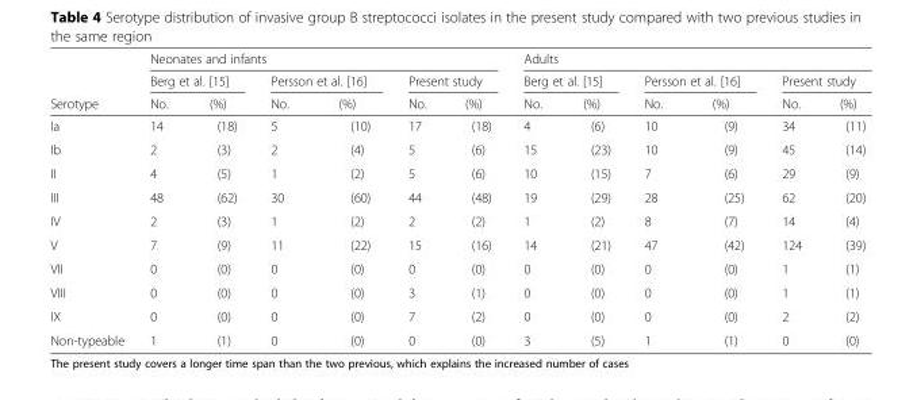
<table><thead><tr><td rowspan="3">Serotype</td><td colspan="6">Neonates and infants</td><td colspan="6">Adults</td></tr><tr><td colspan="2">Berg et al. [15]</td><td colspan="2">Persson et al. [16]</td><td colspan="2">Present study</td><td colspan="2">Berg et al. [15]</td><td colspan="2">Persson et al. [16]</td><td colspan="2">Present study</td></tr><tr><td>No.</td><td>(%)</td><td>No.</td><td>(%)</td><td>No.</td><td>(%)</td><td>No.</td><td>(%)</td><td>No.</td><td>(%)</td><td>No.</td><td>(%)</td></tr></thead><tbody><tr><td>Ia</td><td>14</td><td>(18)</td><td>5</td><td>(10)</td><td>17</td><td>(18)</td><td>4</td><td>(6)</td><td>10</td><td>(9)</td><td>34</td><td>(11)</td></tr><tr><td>Ib</td><td>2</td><td>(3)</td><td>2</td><td>(4)</td><td>5</td><td>(6)</td><td>15</td><td>(23)</td><td>10</td><td>(9)</td><td>45</td><td>(14)</td></tr><tr><td>II</td><td>4</td><td>(5)</td><td>1</td><td>(2)</td><td>5</td><td>(6)</td><td>10</td><td>(15)</td><td>7</td><td>(6)</td><td>29</td><td>(9)</td></tr><tr><td>III</td><td>48</td><td>(62)</td><td>30</td><td>(60)</td><td>44</td><td>(48)</td><td>19</td><td>(29)</td><td>28</td><td>(25)</td><td>62</td><td>(20)</td></tr><tr><td>IV</td><td>2</td><td>(3)</td><td>1</td><td>(2)</td><td>2</td><td>(2)</td><td>1</td><td>(2)</td><td>8</td><td>(7)</td><td>14</td><td>(4)</td></tr><tr><td>V</td><td>7</td><td>(9)</td><td>11</td><td>(22)</td><td>15</td><td>(16)</td><td>14</td><td>(21)</td><td>47</td><td>(42)</td><td>124</td><td>(39)</td></tr><tr><td>VII</td><td>0</td><td>(0)</td><td>0</td><td>(0)</td><td>0</td><td>(0)</td><td>0</td><td>(0)</td><td>0</td><td>(0)</td><td>1</td><td>(1)</td></tr><tr><td>VIII</td><td>0</td><td>(0)</td><td>0</td><td>(0)</td><td>3</td><td>(1)</td><td>0</td><td>(0)</td><td>0</td><td>(0)</td><td>1</td><td>(1)</td></tr><tr><td>IX</td><td>0</td><td>(0)</td><td>0</td><td>(0)</td><td>7</td><td>(2)</td><td>0</td><td>(0)</td><td>0</td><td>(0)</td><td>2</td><td>(2)</td></tr><tr><td>Non-typeable</td><td>1</td><td>(1)</td><td>0</td><td>(0)</td><td>0</td><td>(0)</td><td>3</td><td>(5)</td><td>1</td><td>(1)</td><td>0</td><td>(0)</td></tr></tbody></table>